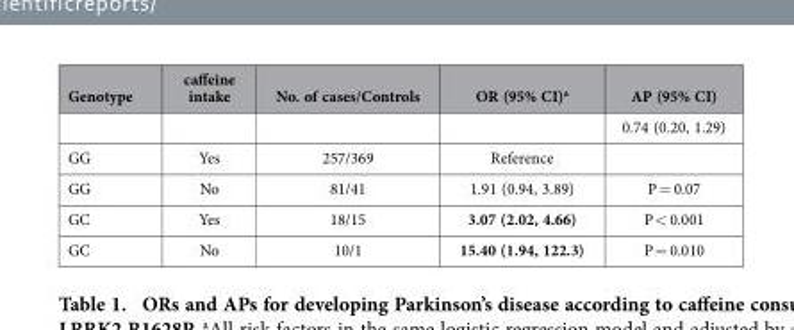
<table><thead><tr><td>Genotype</td><td>caffeine intake</td><td>No. of cases/Controls</td><td>OR (95% CI)<sup>a</sup></td><td>AP (95% CI)</td></tr></thead><tbody><tr><td></td><td></td><td></td><td></td><td>0.74 (0.20, 1.29)</td></tr><tr><td>GG</td><td>Yes</td><td>257/369</td><td>Reference</td><td></td></tr><tr><td>GG</td><td>No</td><td>81/41</td><td>1.91 (0.94, 3.89)</td><td>P = 0.07</td></tr><tr><td>GC</td><td>Yes</td><td>18/15</td><td>3.07 (2.02, 4.66)</td><td>P &lt; 0.001</td></tr><tr><td>GC</td><td>No</td><td>10/1</td><td>15.40 (1.94, 122.3)</td><td>P = 0.010</td></tr></tbody></table>